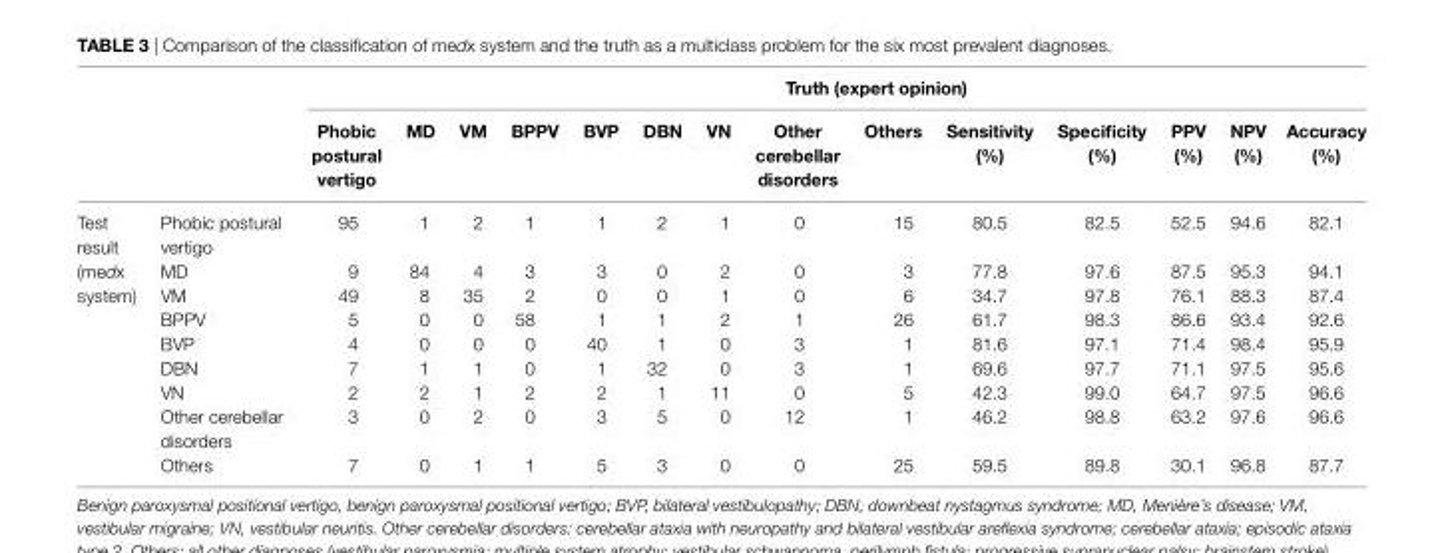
<table><thead><tr><td rowspan="2"></td><td rowspan="2"></td><td colspan="14">Truth (expert opinion)</td></tr><tr><td>Phobic postural vertigo</td><td>MD</td><td>VM</td><td>BPPV</td><td>BVP</td><td>DBn</td><td>Vn</td><td>Other cerebellar disorders</td><td>Others</td><td>sensitivity (%)</td><td>specificity (%)</td><td>PPV (%)</td><td>nPV (%)</td><td>accuracy (%)</td></tr></thead><tbody><tr><td rowspan="9">Test result (medx system)</td><td>Phobic postural vertigo</td><td>95</td><td>1</td><td>2</td><td>1</td><td>1</td><td>2</td><td>1</td><td>0</td><td>15</td><td>80.5</td><td>82.5</td><td>52.5</td><td>94.6</td><td>82.1</td></tr><tr><td>MD</td><td>9</td><td>84</td><td>4</td><td>3</td><td>3</td><td>0</td><td>2</td><td>0</td><td>3</td><td>77.8</td><td>97.6</td><td>87.5</td><td>95.3</td><td>94.1</td></tr><tr><td>VM</td><td>49</td><td>8</td><td>35</td><td>2</td><td>0</td><td>0</td><td>1</td><td>0</td><td>6</td><td>34.7</td><td>97.8</td><td>76.1</td><td>88.3</td><td>87.4</td></tr><tr><td>BPPV</td><td>5</td><td>0</td><td>0</td><td>58</td><td>1</td><td>1</td><td>2</td><td>1</td><td>26</td><td>61.7</td><td>98.3</td><td>86.6</td><td>93.4</td><td>92.6</td></tr><tr><td>BVP</td><td>4</td><td>0</td><td>0</td><td>0</td><td>40</td><td>1</td><td>0</td><td>3</td><td>1</td><td>81.6</td><td>97.1</td><td>71.4</td><td>98.4</td><td>95.9</td></tr><tr><td>DBN</td><td>7</td><td>1</td><td>1</td><td>0</td><td>1</td><td>32</td><td>0</td><td>3</td><td>1</td><td>69.6</td><td>97.7</td><td>71.1</td><td>97.5</td><td>95.6</td></tr><tr><td>VN</td><td>2</td><td>2</td><td>1</td><td>2</td><td>2</td><td>1</td><td>11</td><td>0</td><td>5</td><td>42.3</td><td>99.0</td><td>64.7</td><td>97.5</td><td>96.6</td></tr><tr><td>Other cerebellar disorders</td><td>3</td><td>0</td><td>2</td><td>0</td><td>3</td><td>5</td><td>0</td><td>12</td><td>1</td><td>46.2</td><td>98.8</td><td>63.2</td><td>97.6</td><td>96.6</td></tr><tr><td>Others</td><td>7</td><td>0</td><td>1</td><td>1</td><td>5</td><td>3</td><td>0</td><td>0</td><td>25</td><td>59.5</td><td>89.8</td><td>30.1</td><td>96.8</td><td>87.7</td></tr></tbody></table>